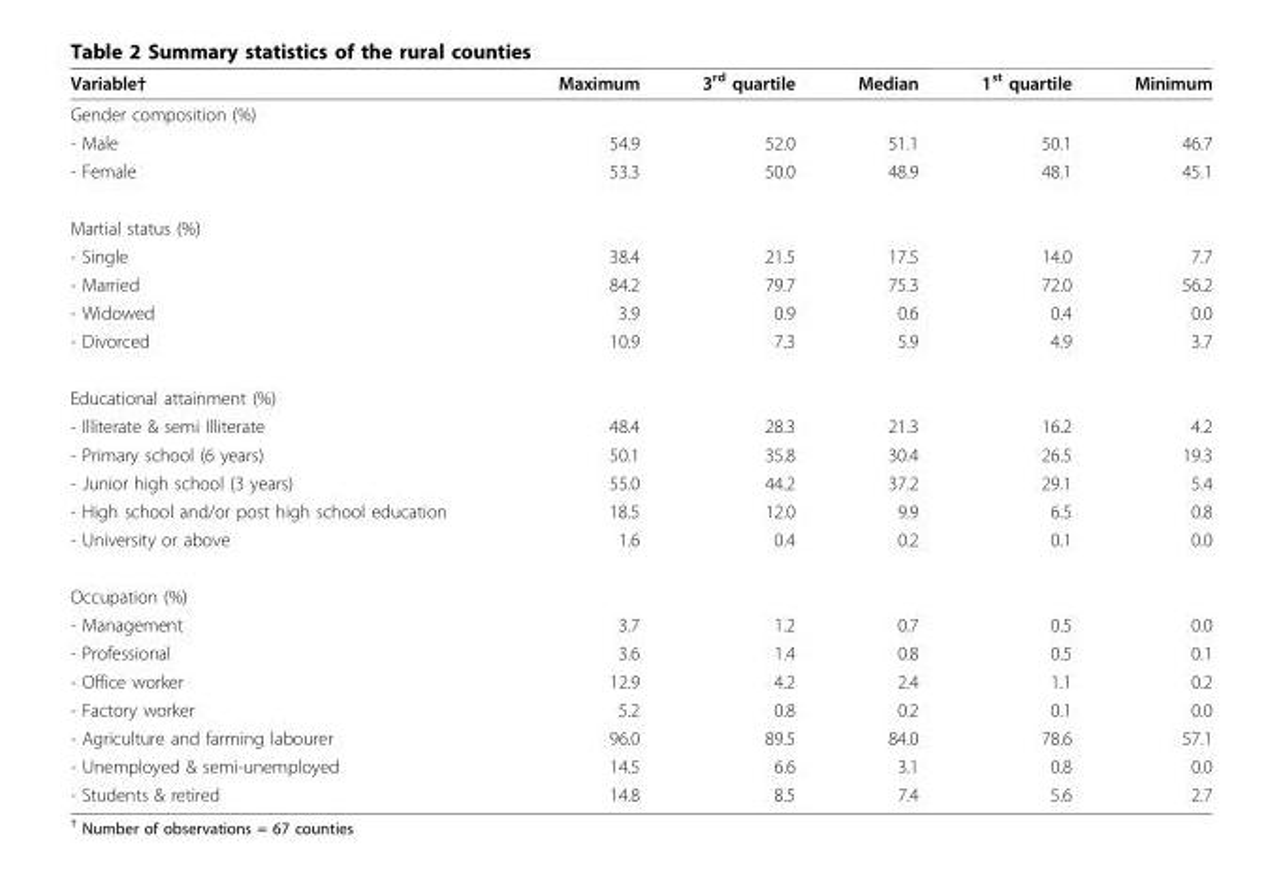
<table><thead><tr><td>Variable†</td><td>Maximum</td><td>3<sup>rd</sup> quartile</td><td>Median</td><td>1<sup>st</sup> quartile</td><td>Minimum</td></tr></thead><tbody><tr><td colspan="6">Gender composition (%)</td></tr><tr><td>- Male</td><td>54.9</td><td>52.0</td><td>51.1</td><td>50.1</td><td>46.7</td></tr><tr><td>- Female</td><td>53.3</td><td>50.0</td><td>48.9</td><td>48.1</td><td>45.1</td></tr><tr><td colspan="6">Martial status (%)</td></tr><tr><td>- Single</td><td>38.4</td><td>21.5</td><td>17.5</td><td>14.0</td><td>7.7</td></tr><tr><td>- Married</td><td>84.2</td><td>79.7</td><td>75.3</td><td>72.0</td><td>56.2</td></tr><tr><td>- Widowed</td><td>3.9</td><td>0.9</td><td>0.6</td><td>0.4</td><td>0.0</td></tr><tr><td>- Divorced</td><td>10.9</td><td>7.3</td><td>5.9</td><td>4.9</td><td>3.7</td></tr><tr><td colspan="6">Educational attainment (%)</td></tr><tr><td>- Illiterate &amp; semi Illiterate</td><td>48.4</td><td>28.3</td><td>21.3</td><td>16.2</td><td>4.2</td></tr><tr><td>- Primary school (6 years)</td><td>50.1</td><td>35.8</td><td>30.4</td><td>26.5</td><td>19.3</td></tr><tr><td>- Junior high school (3 years)</td><td>55.0</td><td>44.2</td><td>37.2</td><td>29.1</td><td>5.4</td></tr><tr><td>- High school and/or post high school education</td><td>18.5</td><td>12.0</td><td>9.9</td><td>6.5</td><td>0.8</td></tr><tr><td>- University or above</td><td>1.6</td><td>0.4</td><td>0.2</td><td>0.1</td><td>0.0</td></tr><tr><td colspan="6">Occupation (%)</td></tr><tr><td>- Management</td><td>3.7</td><td>1.2</td><td>0.7</td><td>0.5</td><td>0.0</td></tr><tr><td>- Professional</td><td>3.6</td><td>1.4</td><td>0.8</td><td>0.5</td><td>0.1</td></tr><tr><td>- Office worker</td><td>12.9</td><td>4.2</td><td>2.4</td><td>1.1</td><td>0.2</td></tr><tr><td>- Factory worker</td><td>5.2</td><td>0.8</td><td>0.2</td><td>0.1</td><td>0.0</td></tr><tr><td>- Agriculture and farming labourer</td><td>96.0</td><td>89.5</td><td>84.0</td><td>78.6</td><td>57.1</td></tr><tr><td>- Unemployed &amp; semi-unemployed</td><td>14.5</td><td>6.6</td><td>3.1</td><td>0.8</td><td>0.0</td></tr><tr><td>- Students &amp; retired</td><td>14.8</td><td>8.5</td><td>7.4</td><td>5.6</td><td>2.7</td></tr></tbody></table>